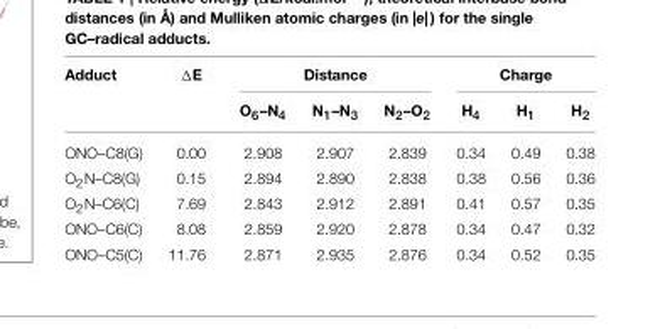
<table><thead><tr><td rowspan="2">Adduct</td><td rowspan="2">ΔE</td><td colspan="3">Distance</td><td colspan="3">Charge</td></tr><tr><td>O6–N4</td><td>N1–N3</td><td>N2–O2</td><td>H4</td><td>H1</td><td>H2</td></tr></thead><tbody><tr><td>ONO–C8(G)</td><td>0.00</td><td>2.908</td><td>2.907</td><td>2.839</td><td>0.34</td><td>0.49</td><td>0.38</td></tr><tr><td>O<sub>2</sub>N–C8(G)</td><td>0.15</td><td>2.894</td><td>2.890</td><td>2.838</td><td>0.38</td><td>0.56</td><td>0.36</td></tr><tr><td>O<sub>2</sub>N–C6(C)</td><td>7.69</td><td>2.843</td><td>2.912</td><td>2.891</td><td>0.41</td><td>0.57</td><td>0.35</td></tr><tr><td>ONO–C6(C)</td><td>8.08</td><td>2.859</td><td>2.920</td><td>2.878</td><td>0.34</td><td>0.47</td><td>0.32</td></tr><tr><td>ONO–C5(C)</td><td>11.76</td><td>2.871</td><td>2.935</td><td>2.876</td><td>0.34</td><td>0.52</td><td>0.35</td></tr></tbody></table>